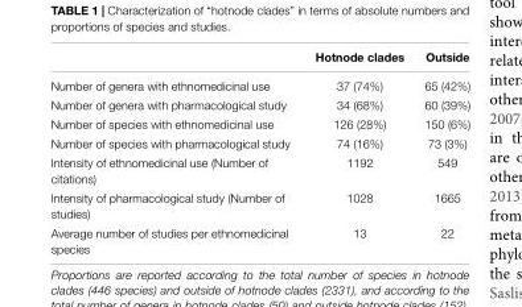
<table><thead><tr><td></td><td>Hotnode clades</td><td>Outside</td></tr></thead><tbody><tr><td>Number of genera with ethnomedicinal use</td><td>37 (74%)</td><td>65 (42%)</td></tr><tr><td>Number of genera with pharmacological study</td><td>34 (68%)</td><td>60 (39%)</td></tr><tr><td>Number of species with ethnomedicinal use</td><td>126 (28%)</td><td>150 (6%)</td></tr><tr><td>Number of species with pharmacological study</td><td>74 (16%)</td><td>73 (3%)</td></tr><tr><td>Intensity of ethnomedicinal use (Number of citations)</td><td>1192</td><td>549</td></tr><tr><td>Intensity of pharmacological study (Number of studies)</td><td>1028</td><td>1665</td></tr><tr><td>Average number of studies per ethnomedicinal species</td><td>13</td><td>22</td></tr></tbody></table>